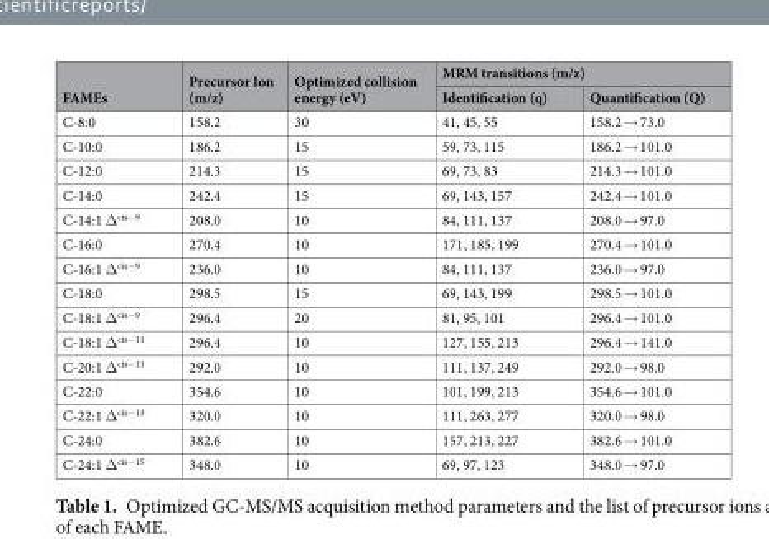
<table><thead><tr><td rowspan="2">FAMEs</td><td rowspan="2">Precursor Ion (m/z)</td><td rowspan="2">Optimized collision energy (eV)</td><td colspan="2">MRM transitions (m/z)</td></tr><tr><td>Identification (q)</td><td>Quantification (Q)</td></tr></thead><tbody><tr><td>C-8:0</td><td>158.2</td><td>30</td><td>41, 45, 55</td><td>158.2 → 73.0</td></tr><tr><td>C-10:0</td><td>186.2</td><td>15</td><td>59, 73, 115</td><td>186.2 → 101.0</td></tr><tr><td>C-12:0</td><td>214.3</td><td>15</td><td>69, 73, 83</td><td>214.3 → 101.0</td></tr><tr><td>C-14:0</td><td>242.4</td><td>15</td><td>69, 143, 157</td><td>242.4 → 101.0</td></tr><tr><td>C-14:1 Δ<sup>cis−9</sup></td><td>208.0</td><td>10</td><td>84, 111, 137</td><td>208.0 → 97.0</td></tr><tr><td>C-16:0</td><td>270.4</td><td>10</td><td>171, 185, 199</td><td>270.4 → 101.0</td></tr><tr><td>C-16:1 Δ<sup>cis−9</sup></td><td>236.0</td><td>10</td><td>84, 111, 137</td><td>236.0 → 97.0</td></tr><tr><td>C-18:0</td><td>298.5</td><td>15</td><td>69, 143, 199</td><td>298.5 → 101.0</td></tr><tr><td>C-18:1 Δ<sup>cis−9</sup></td><td>296.4</td><td>20</td><td>81, 95, 101</td><td>296.4 → 101.0</td></tr><tr><td>C-18:1 Δ<sup>cis−11</sup></td><td>296.4</td><td>10</td><td>127, 155, 213</td><td>296.4 → 141.0</td></tr><tr><td>C-20:1 Δ<sup>cis−11</sup></td><td>292.0</td><td>10</td><td>111, 137, 249</td><td>292.0 → 98.0</td></tr><tr><td>C-22:0</td><td>354.6</td><td>10</td><td>101, 199, 213</td><td>354.6 → 101.0</td></tr><tr><td>C-22:1 Δ<sup>cis−13</sup></td><td>320.0</td><td>10</td><td>111, 263, 277</td><td>320.0 → 98.0</td></tr><tr><td>C-24:0</td><td>382.6</td><td>10</td><td>157, 213, 227</td><td>382.6 → 101.0</td></tr><tr><td>C-24:1 Δ<sup>cis−15</sup></td><td>348.0</td><td>10</td><td>69, 97, 123</td><td>348.0 → 97.0</td></tr></tbody></table>